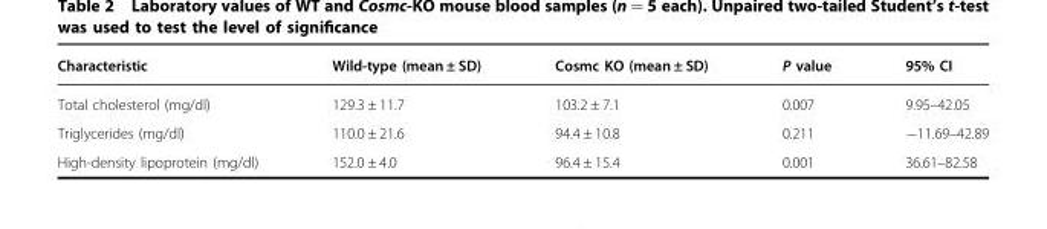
<table><thead><tr><td>Characteristic</td><td>Wild-type (mean ± SD)</td><td>Cosmc KO (mean ± SD)</td><td>P value</td><td>95% CI</td></tr></thead><tbody><tr><td>Total cholesterol (mg/dl)</td><td>129.3 ± 11.7</td><td>103.2 ± 7.1</td><td>0.007</td><td>9.95–42.05</td></tr><tr><td>Triglycerides (mg/dl)</td><td>110.0 ± 21.6</td><td>94.4 ± 10.8</td><td>0.211</td><td>−11.69–42.89</td></tr><tr><td>High-density lipoprotein (mg/dl)</td><td>152.0 ± 4.0</td><td>96.4 ± 15.4</td><td>0.001</td><td>36.61–82.58</td></tr></tbody></table>